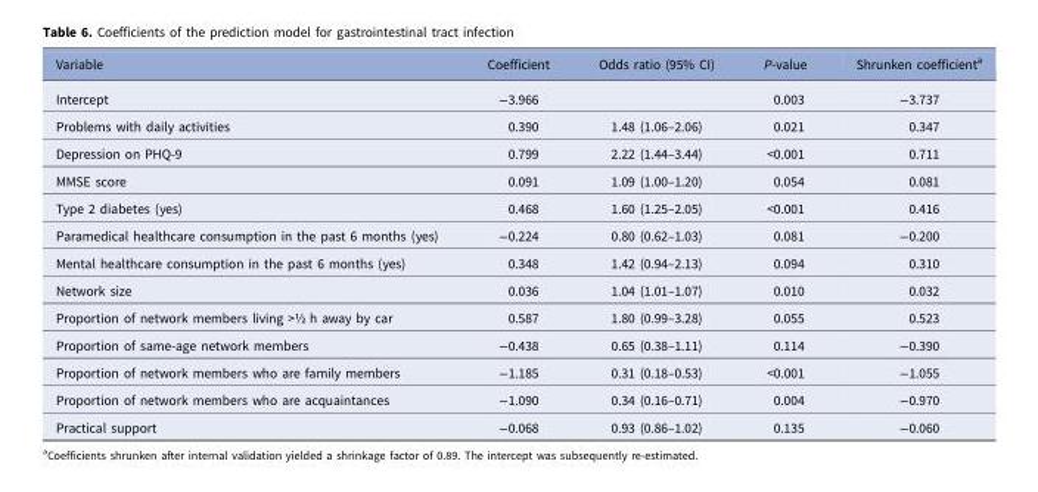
<table><thead><tr><td>Variable</td><td>Coefficient</td><td>Odds ratio (95% CI)</td><td>P-value</td><td>Shrunken coefficient<sup>a</sup></td></tr></thead><tbody><tr><td>Intercept</td><td>−3.966</td><td></td><td>0.003</td><td>−3.737</td></tr><tr><td>Problems with daily activities</td><td>0.390</td><td>1.48 (1.06–2.06)</td><td>0.021</td><td>0.347</td></tr><tr><td>Depression on PHQ-9</td><td>0.799</td><td>2.22 (1.44–3.44)</td><td>&lt;0.001</td><td>0.711</td></tr><tr><td>MMSE score</td><td>0.091</td><td>1.09 (1.00–1.20)</td><td>0.054</td><td>0.081</td></tr><tr><td>Type 2 diabetes (yes)</td><td>0.468</td><td>1.60 (1.25–2.05)</td><td>&lt;0.001</td><td>0.416</td></tr><tr><td>Paramedical healthcare consumption in the past 6 months (yes)</td><td>−0.224</td><td>0.80 (0.62–1.03)</td><td>0.081</td><td>−0.200</td></tr><tr><td>Mental healthcare consumption in the past 6 months (yes)</td><td>0.348</td><td>1.42 (0.94–2.13)</td><td>0.094</td><td>0.310</td></tr><tr><td>Network size</td><td>0.036</td><td>1.04 (1.01–1.07)</td><td>0.010</td><td>0.032</td></tr><tr><td>Proportion of network members living &gt;½ h away by car</td><td>0.587</td><td>1.80 (0.99–3.28)</td><td>0.055</td><td>0.523</td></tr><tr><td>Proportion of same-age network members</td><td>−0.438</td><td>0.65 (0.38–1.11)</td><td>0.114</td><td>−0.390</td></tr><tr><td>Proportion of network members who are family members</td><td>−1.185</td><td>0.31 (0.18–0.53)</td><td>&lt;0.001</td><td>−1.055</td></tr><tr><td>Proportion of network members who are acquaintances</td><td>−1.090</td><td>0.34 (0.16–0.71)</td><td>0.004</td><td>−0.970</td></tr><tr><td>Practical support</td><td>−0.068</td><td>0.93 (0.86–1.02)</td><td>0.135</td><td>−0.060</td></tr></tbody></table>